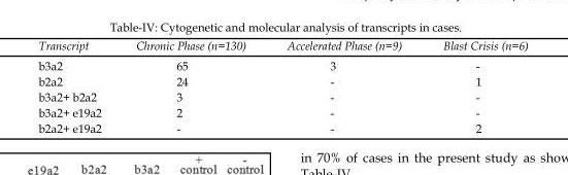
<table><thead><tr><td>Transcript</td><td>Chronic Phase (n=130)</td><td>Accelerated Phase (n=9)</td><td>Blast Crisis (n=6)</td></tr></thead><tbody><tr><td>b3a2</td><td>65</td><td>3</td><td>-</td></tr><tr><td>b2a2</td><td>24</td><td>-</td><td>1</td></tr><tr><td>b3a2+ b2a2</td><td>3</td><td>-</td><td>-</td></tr><tr><td>b3a2+ e19a2</td><td>2</td><td>-</td><td>-</td></tr><tr><td>b2a2+ e19a2</td><td>-</td><td>-</td><td>2</td></tr></tbody></table>